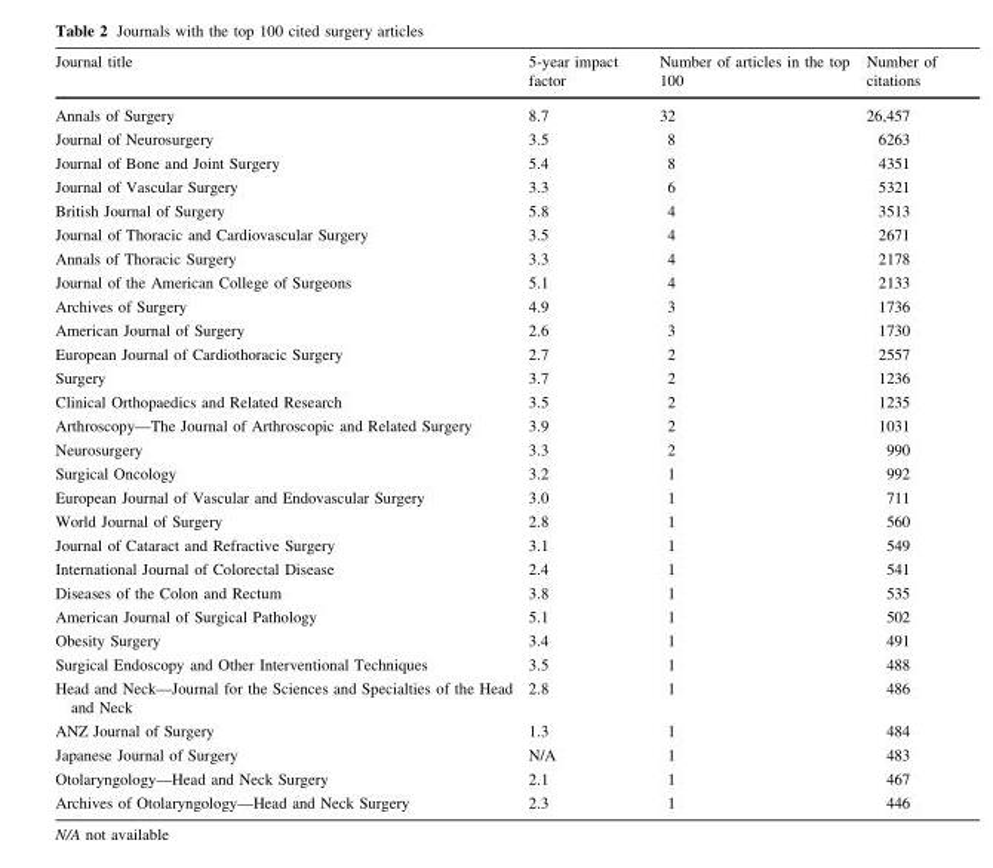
<table><thead><tr><td>Journal title</td><td>5-year impact factor</td><td>Number of articles in the top 100</td><td>Number of citations</td></tr></thead><tbody><tr><td>Annals of Surgery</td><td>8.7</td><td>32</td><td>26,457</td></tr><tr><td>Journal of Neurosurgery</td><td>3.5</td><td>8</td><td>6263</td></tr><tr><td>Journal of Bone and Joint Surgery</td><td>5.4</td><td>8</td><td>4351</td></tr><tr><td>Journal of Vascular Surgery</td><td>3.3</td><td>6</td><td>5321</td></tr><tr><td>British Journal of Surgery</td><td>5.8</td><td>4</td><td>3513</td></tr><tr><td>Journal of Thoracic and Cardiovascular Surgery</td><td>3.5</td><td>4</td><td>2671</td></tr><tr><td>Annals of Thoracic Surgery</td><td>3.3</td><td>4</td><td>2178</td></tr><tr><td>Journal of the American College of Surgeons</td><td>5.1</td><td>4</td><td>2133</td></tr><tr><td>Archives of Surgery</td><td>4.9</td><td>3</td><td>1736</td></tr><tr><td>American Journal of Surgery</td><td>2.6</td><td>3</td><td>1730</td></tr><tr><td>European Journal of Cardiothoracic Surgery</td><td>2.7</td><td>2</td><td>2557</td></tr><tr><td>Surgery</td><td>3.7</td><td>2</td><td>1236</td></tr><tr><td>Clinical Orthopaedics and Related Research</td><td>3.5</td><td>2</td><td>1235</td></tr><tr><td>Arthroscopy—The Journal of Arthroscopic and Related Surgery</td><td>3.9</td><td>2</td><td>1031</td></tr><tr><td>Neurosurgery</td><td>3.3</td><td>2</td><td>990</td></tr><tr><td>Surgical Oncology</td><td>3.2</td><td>1</td><td>992</td></tr><tr><td>European Journal of Vascular and Endovascular Surgery</td><td>3.0</td><td>1</td><td>711</td></tr><tr><td>World Journal of Surgery</td><td>2.8</td><td>1</td><td>560</td></tr><tr><td>Journal of Cataract and Refractive Surgery</td><td>3.1</td><td>1</td><td>549</td></tr><tr><td>International Journal of Colorectal Disease</td><td>2.4</td><td>1</td><td>541</td></tr><tr><td>Diseases of the Colon and Rectum</td><td>3.8</td><td>1</td><td>535</td></tr><tr><td>American Journal of Surgical Pathology</td><td>5.1</td><td>1</td><td>502</td></tr><tr><td>Obesity Surgery</td><td>3.4</td><td>1</td><td>491</td></tr><tr><td>Surgical Endoscopy and Other Interventional Techniques</td><td>3.5</td><td>1</td><td>488</td></tr><tr><td>Head and Neck—Journal for the Sciences and Specialties of the Head and Neck</td><td>2.8</td><td>1</td><td>486</td></tr><tr><td>ANZ Journal of Surgery</td><td>1.3</td><td>1</td><td>484</td></tr><tr><td>Japanese Journal of Surgery</td><td>N/A</td><td>1</td><td>483</td></tr><tr><td>Otolaryngology—Head and Neck Surgery</td><td>2.1</td><td>1</td><td>467</td></tr><tr><td>Archives of Otolaryngology—Head and Neck Surgery</td><td>2.3</td><td>1</td><td>446</td></tr></tbody></table>